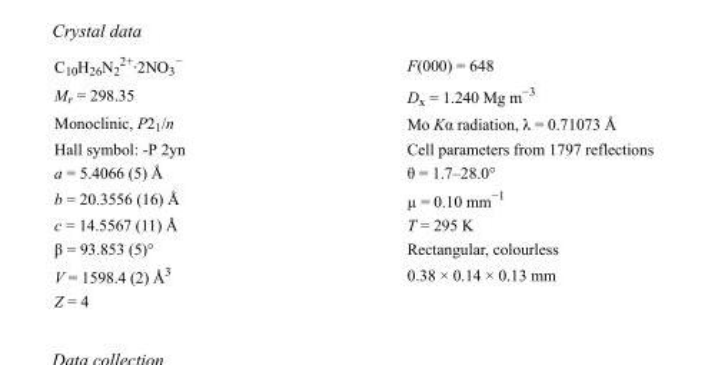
<table><tbody><tr><td>C<sub>10</sub>H<sub>26</sub>N<sub>2</sub> <sup>2+</sup>·2NO<sub>3</sub> <sup>−</sup></td><td>F(000) = 648</td></tr><tr><td>M<sub>r</sub> = 298.35</td><td>D<sub>x</sub> = 1.240 Mg m<sup>−3</sup></td></tr><tr><td>Monoclinic, P2<sub>1</sub>/n</td><td>Mo Kα radiation, λ = 0.71073 Å</td></tr><tr><td>Hall symbol: -P 2yn</td><td>Cell parameters from 1797 reflections</td></tr><tr><td>a = 5.4066 (5) Å</td><td>θ = 1.7–28.0°</td></tr><tr><td>b = 20.3556 (16) Å</td><td>µ = 0.10 mm<sup>−1</sup></td></tr><tr><td>c = 14.5567 (11) Å</td><td>T = 295 K</td></tr><tr><td>β = 93.853 (5)°</td><td>Rectangular, colourless</td></tr><tr><td>V = 1598.4 (2) Å<sup>3</sup></td><td>0.38 × 0.14 × 0.13 mm</td></tr><tr><td>Z = 4</td><td></td></tr></tbody></table>